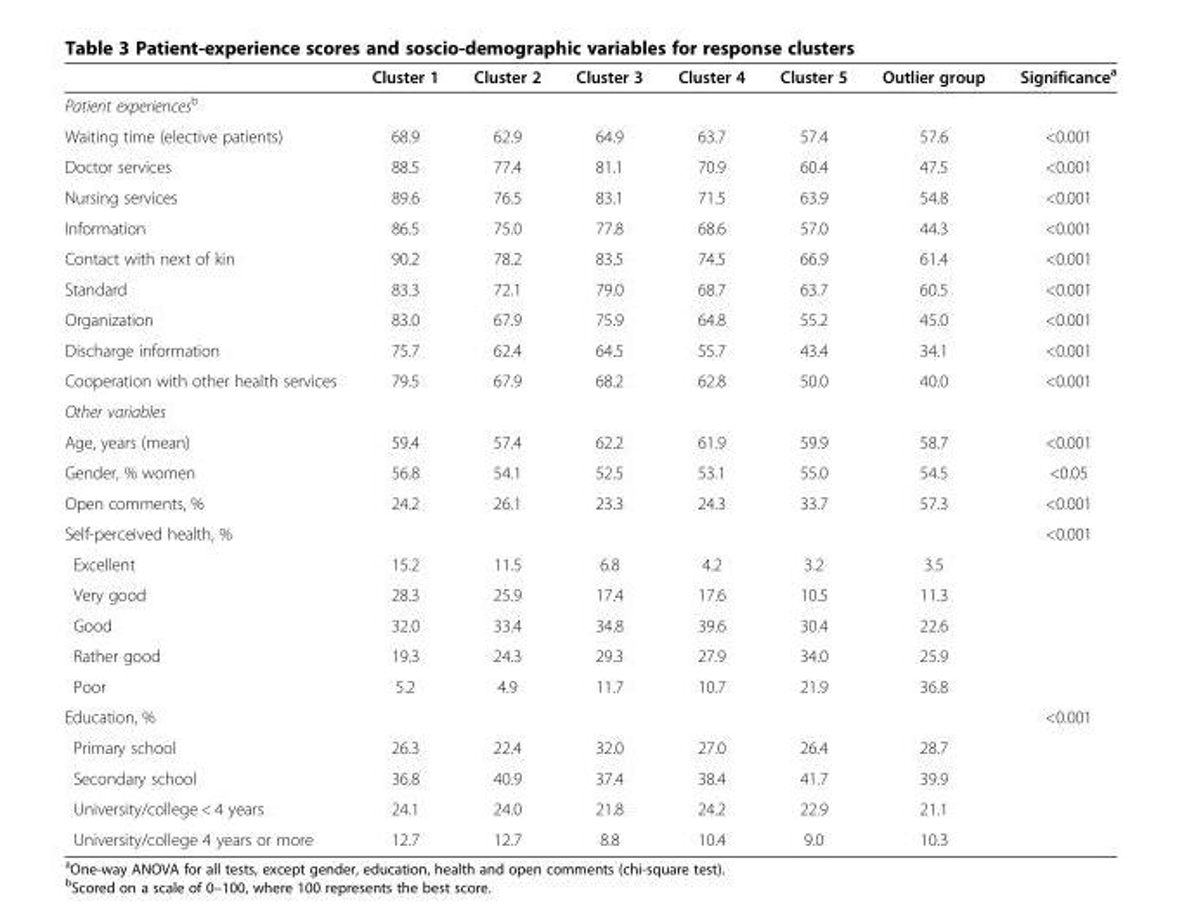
<table><thead><tr><td></td><td>Cluster 1</td><td>Cluster 2</td><td>Cluster 3</td><td>Cluster 4</td><td>Cluster 5</td><td>Outlier group</td><td>Significance<sup>a</sup></td></tr></thead><tbody><tr><td colspan="8">Patient experiences<sup>b</sup></td></tr><tr><td>Waiting time (elective patients)</td><td>68.9</td><td>62.9</td><td>64.9</td><td>63.7</td><td>57.4</td><td>57.6</td><td>&lt;0.001</td></tr><tr><td>Doctor services</td><td>88.5</td><td>77.4</td><td>81.1</td><td>70.9</td><td>60.4</td><td>47.5</td><td>&lt;0.001</td></tr><tr><td>Nursing services</td><td>89.6</td><td>76.5</td><td>83.1</td><td>71.5</td><td>63.9</td><td>54.8</td><td>&lt;0.001</td></tr><tr><td>Information</td><td>86.5</td><td>75.0</td><td>77.8</td><td>68.6</td><td>57.0</td><td>44.3</td><td>&lt;0.001</td></tr><tr><td>Contact with next of kin</td><td>90.2</td><td>78.2</td><td>83.5</td><td>74.5</td><td>66.9</td><td>61.4</td><td>&lt;0.001</td></tr><tr><td>Standard</td><td>83.3</td><td>72.1</td><td>79.0</td><td>68.7</td><td>63.7</td><td>60.5</td><td>&lt;0.001</td></tr><tr><td>Organization</td><td>83.0</td><td>67.9</td><td>75.9</td><td>64.8</td><td>55.2</td><td>45.0</td><td>&lt;0.001</td></tr><tr><td>Discharge information</td><td>75.7</td><td>62.4</td><td>64.5</td><td>55.7</td><td>43.4</td><td>34.1</td><td>&lt;0.001</td></tr><tr><td>Cooperation with other health services</td><td>79.5</td><td>67.9</td><td>68.2</td><td>62.8</td><td>50.0</td><td>40.0</td><td>&lt;0.001</td></tr><tr><td colspan="8">Other variables</td></tr><tr><td>Age, years (mean)</td><td>59.4</td><td>57.4</td><td>62.2</td><td>61.9</td><td>59.9</td><td>58.7</td><td>&lt;0.001</td></tr><tr><td>Gender, % women</td><td>56.8</td><td>54.1</td><td>52.5</td><td>53.1</td><td>55.0</td><td>54.5</td><td>&lt;0.05</td></tr><tr><td>Open comments, %</td><td>24.2</td><td>26.1</td><td>23.3</td><td>24.3</td><td>33.7</td><td>57.3</td><td>&lt;0.001</td></tr><tr><td>Self-perceived health, %</td><td></td><td></td><td></td><td></td><td></td><td></td><td>&lt;0.001</td></tr><tr><td>Excellent</td><td>15.2</td><td>11.5</td><td>6.8</td><td>4.2</td><td>3.2</td><td>3.5</td><td></td></tr><tr><td>Very good</td><td>28.3</td><td>25.9</td><td>17.4</td><td>17.6</td><td>10.5</td><td>11.3</td><td></td></tr><tr><td>Good</td><td>32.0</td><td>33.4</td><td>34.8</td><td>39.6</td><td>30.4</td><td>22.6</td><td></td></tr><tr><td>Rather good</td><td>19.3</td><td>24.3</td><td>29.3</td><td>27.9</td><td>34.0</td><td>25.9</td><td></td></tr><tr><td>Poor</td><td>5.2</td><td>4.9</td><td>11.7</td><td>10.7</td><td>21.9</td><td>36.8</td><td></td></tr><tr><td>Education, %</td><td></td><td></td><td></td><td></td><td></td><td></td><td>&lt;0.001</td></tr><tr><td>Primary school</td><td>26.3</td><td>22.4</td><td>32.0</td><td>27.0</td><td>26.4</td><td>28.7</td><td></td></tr><tr><td>Secondary school</td><td>36.8</td><td>40.9</td><td>37.4</td><td>38.4</td><td>41.7</td><td>39.9</td><td></td></tr><tr><td>University/college &lt; 4 years</td><td>24.1</td><td>24.0</td><td>21.8</td><td>24.2</td><td>22.9</td><td>21.1</td><td></td></tr><tr><td>University/college 4 years or more</td><td>12.7</td><td>12.7</td><td>8.8</td><td>10.4</td><td>9.0</td><td>10.3</td><td></td></tr></tbody></table>